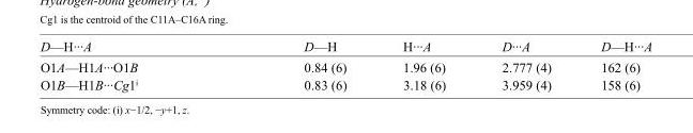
<table><tbody><tr><td>D—H···A</td><td>D—H</td><td>H···A</td><td>D···A</td><td>D—H···A</td></tr><tr><td>O1A—H1A···O1B</td><td>0.84 (6)</td><td>1.96 (6)</td><td>2.777 (4)</td><td>162 (6)</td></tr><tr><td>O1B—H1B···Cg1<sup>i</sup></td><td>0.83 (6)</td><td>3.18 (6)</td><td>3.959 (4)</td><td>158 (6)</td></tr></tbody></table>